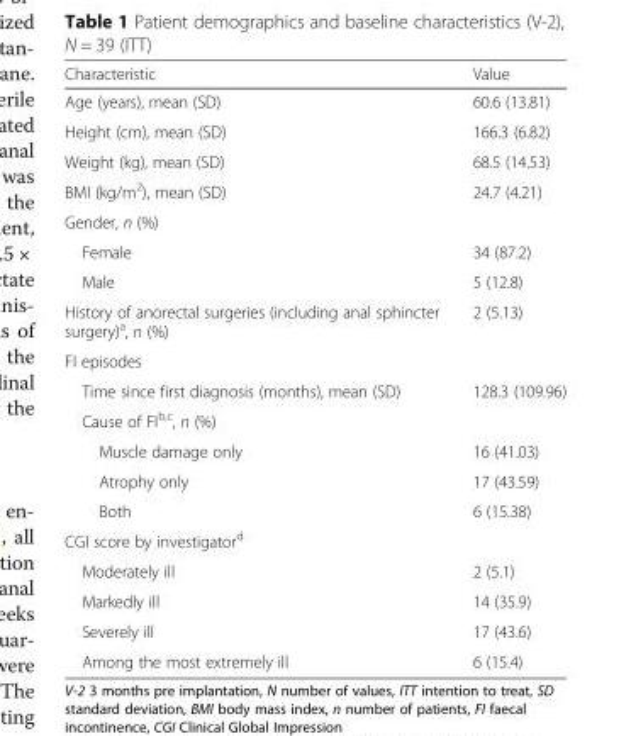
<table><thead><tr><td>Characteristic</td><td>Value</td></tr></thead><tbody><tr><td>Age (years), mean (SD)</td><td>60.6 (13.81)</td></tr><tr><td>Height (cm), mean (SD)</td><td>166.3 (6.82)</td></tr><tr><td>Weight (kg), mean (SD)</td><td>68.5 (14.53)</td></tr><tr><td>BMI (kg/m<sup>2</sup>), mean (SD)</td><td>24.7 (4.21)</td></tr><tr><td colspan="2">Gender, n (%)</td></tr><tr><td>Female</td><td>34 (87.2)</td></tr><tr><td>Male</td><td>5 (12.8)</td></tr><tr><td>History of anorectal surgeries (including anal sphincter surgery)<sup>a</sup>, n (%)</td><td>2 (5.13)</td></tr><tr><td colspan="2">FI episodes</td></tr><tr><td>Time since first diagnosis (months), mean (SD)</td><td>128.3 (109.96)</td></tr><tr><td colspan="2">Cause of FI<sup>b,c</sup>, n (%)</td></tr><tr><td>Muscle damage only</td><td>16 (41.03)</td></tr><tr><td>Atrophy only</td><td>17 (43.59)</td></tr><tr><td>Both</td><td>6 (15.38)</td></tr><tr><td colspan="2">CGI score by investigator<sup>d</sup></td></tr><tr><td>Moderately ill</td><td>2 (5.1)</td></tr><tr><td>Markedly ill</td><td>14 (35.9)</td></tr><tr><td>Severely ill</td><td>17 (43.6)</td></tr><tr><td>Among the most extremely ill</td><td>6 (15.4)</td></tr></tbody></table>